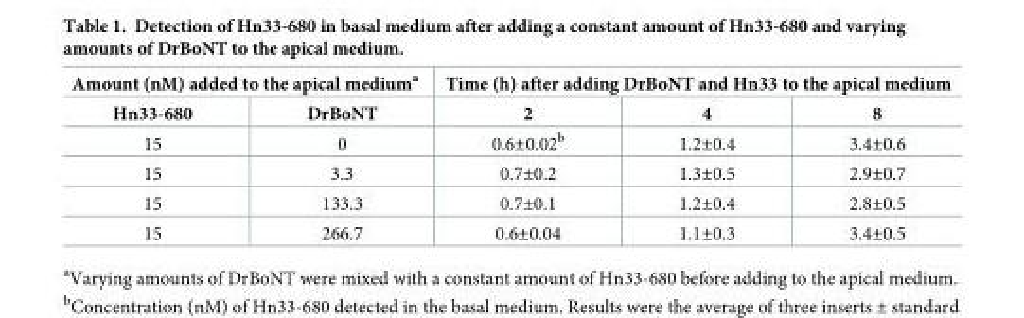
<table><thead><tr><td colspan="2">Amount (nM) added to the apical medium<sup>a</sup></td><td colspan="3">Time (h) after adding DrBoNT and Hn33 to the apical medium</td></tr><tr><td>Hn33-680</td><td>DrBoNT</td><td>2</td><td>4</td><td>8</td></tr></thead><tbody><tr><td>15</td><td>0</td><td>0.6±0.02<sup>b</sup></td><td>1.2±0.4</td><td>3.4±0.6</td></tr><tr><td>15</td><td>3.3</td><td>0.7±0.2</td><td>1.3±0.5</td><td>2.9±0.7</td></tr><tr><td>15</td><td>133.3</td><td>0.7±0.1</td><td>1.2±0.4</td><td>2.8±0.5</td></tr><tr><td>15</td><td>266.7</td><td>0.6±0.04</td><td>1.1±0.3</td><td>3.4±0.5</td></tr></tbody></table>